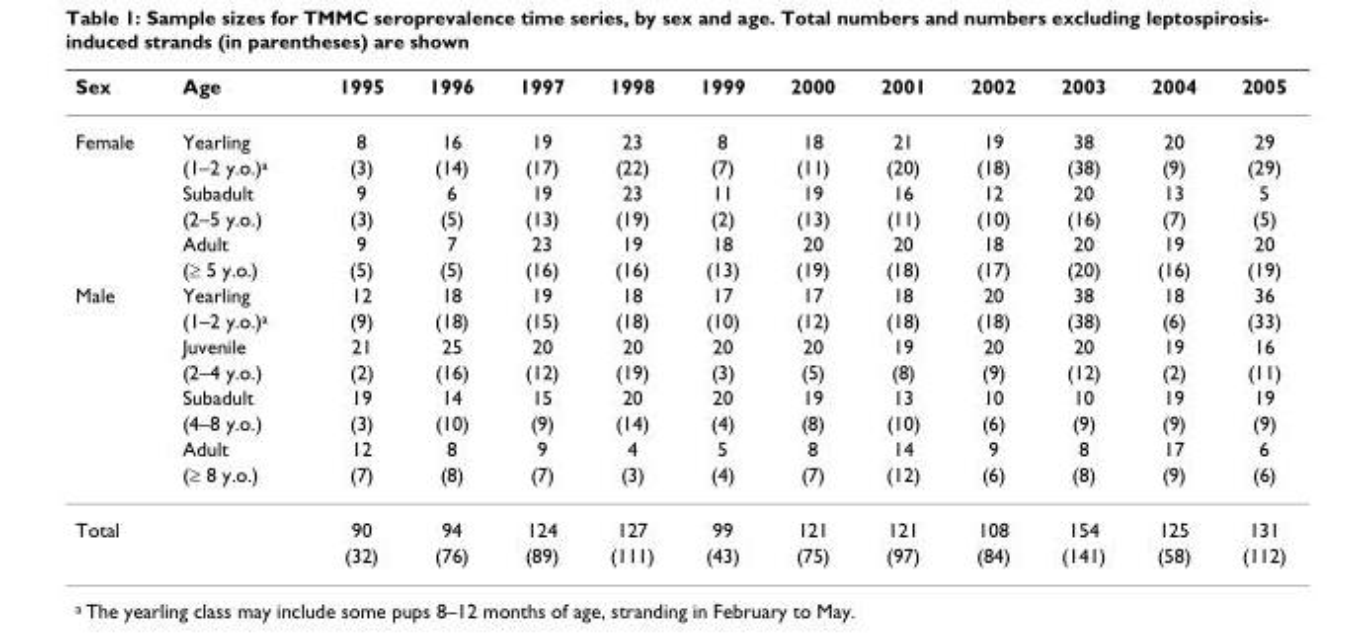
<table><thead><tr><td>Sex</td><td>Age</td><td>1995</td><td>1996</td><td>1997</td><td>1998</td><td>1999</td><td>2000</td><td>2001</td><td>2002</td><td>2003</td><td>2004</td><td>2005</td></tr></thead><tbody><tr><td rowspan="6">Female</td><td>Yearling</td><td>8</td><td>16</td><td>19</td><td>23</td><td>8</td><td>18</td><td>21</td><td>19</td><td>38</td><td>20</td><td>29</td></tr><tr><td>(1–2 y.o.)<sup>a</sup></td><td>(3)</td><td>(14)</td><td>(17)</td><td>(22)</td><td>(7)</td><td>(11)</td><td>(20)</td><td>(18)</td><td>(38)</td><td>(9)</td><td>(29)</td></tr><tr><td>Subadult</td><td>9</td><td>6</td><td>19</td><td>23</td><td>11</td><td>19</td><td>16</td><td>12</td><td>20</td><td>13</td><td>5</td></tr><tr><td>(2–5 y.o.)</td><td>(3)</td><td>(5)</td><td>(13)</td><td>(19)</td><td>(2)</td><td>(13)</td><td>(11)</td><td>(10)</td><td>(16)</td><td>(7)</td><td>(5)</td></tr><tr><td>Adult</td><td>9</td><td>7</td><td>23</td><td>19</td><td>18</td><td>20</td><td>20</td><td>18</td><td>20</td><td>19</td><td>20</td></tr><tr><td>(≥ 5 y.o.)</td><td>(5)</td><td>(5)</td><td>(16)</td><td>(16)</td><td>(13)</td><td>(19)</td><td>(18)</td><td>(17)</td><td>(20)</td><td>(16)</td><td>(19)</td></tr><tr><td rowspan="8">Male</td><td>Yearling</td><td>12</td><td>18</td><td>19</td><td>18</td><td>17</td><td>17</td><td>18</td><td>20</td><td>38</td><td>18</td><td>36</td></tr><tr><td>(1–2 y.o.)<sup>a</sup></td><td>(9)</td><td>(18)</td><td>(15)</td><td>(18)</td><td>(10)</td><td>(12)</td><td>(18)</td><td>(18)</td><td>(38)</td><td>(6)</td><td>(33)</td></tr><tr><td>Juvenile</td><td>21</td><td>25</td><td>20</td><td>20</td><td>20</td><td>20</td><td>19</td><td>20</td><td>20</td><td>19</td><td>16</td></tr><tr><td>(2–4 y.o.)</td><td>(2)</td><td>(16)</td><td>(12)</td><td>(19)</td><td>(3)</td><td>(5)</td><td>(8)</td><td>(9)</td><td>(12)</td><td>(2)</td><td>(11)</td></tr><tr><td>Subadult</td><td>19</td><td>14</td><td>15</td><td>20</td><td>20</td><td>19</td><td>13</td><td>10</td><td>10</td><td>19</td><td>19</td></tr><tr><td>(4–8 y.o.)</td><td>(3)</td><td>(10)</td><td>(9)</td><td>(14)</td><td>(4)</td><td>(8)</td><td>(10)</td><td>(6)</td><td>(9)</td><td>(9)</td><td>(9)</td></tr><tr><td>Adult</td><td>12</td><td>8</td><td>9</td><td>4</td><td>5</td><td>8</td><td>14</td><td>9</td><td>8</td><td>17</td><td>6</td></tr><tr><td>(≥ 8 y.o.)</td><td>(7)</td><td>(8)</td><td>(7)</td><td>(3)</td><td>(4)</td><td>(7)</td><td>(12)</td><td>(6)</td><td>(8)</td><td>(9)</td><td>(6)</td></tr><tr><td rowspan="2">Total</td><td></td><td>90</td><td>94</td><td>124</td><td>127</td><td>99</td><td>121</td><td>121</td><td>108</td><td>154</td><td>125</td><td>131</td></tr><tr><td></td><td>(32)</td><td>(76)</td><td>(89)</td><td>(111)</td><td>(43)</td><td>(75)</td><td>(97)</td><td>(84)</td><td>(141)</td><td>(58)</td><td>(112)</td></tr></tbody></table>